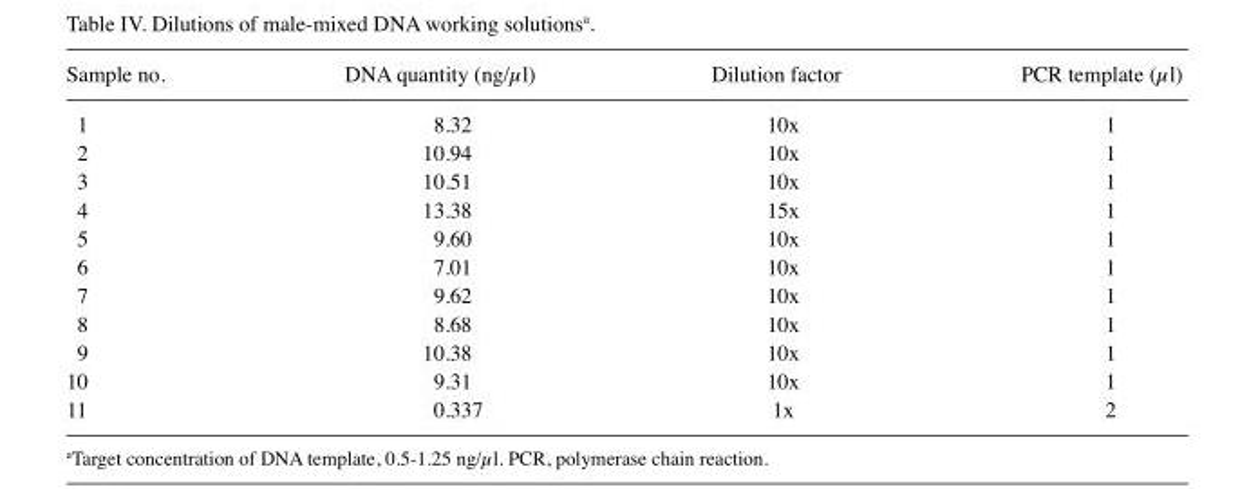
<table><thead><tr><td>Sample no.</td><td>DNA quantity (ng/µl)</td><td>Dilution factor</td><td>PCR template (µl)</td></tr></thead><tbody><tr><td>1</td><td>8.32</td><td>10x</td><td>1</td></tr><tr><td>2</td><td>10.94</td><td>10x</td><td>1</td></tr><tr><td>3</td><td>10.51</td><td>10x</td><td>1</td></tr><tr><td>4</td><td>13.38</td><td>15x</td><td>1</td></tr><tr><td>5</td><td>9.60</td><td>10x</td><td>1</td></tr><tr><td>6</td><td>7.01</td><td>10x</td><td>1</td></tr><tr><td>7</td><td>9.62</td><td>10x</td><td>1</td></tr><tr><td>8</td><td>8.68</td><td>10x</td><td>1</td></tr><tr><td>9</td><td>10.38</td><td>10x</td><td>1</td></tr><tr><td>10</td><td>9.31</td><td>10x</td><td>1</td></tr><tr><td>11</td><td>0.337</td><td>1x</td><td>2</td></tr></tbody></table>